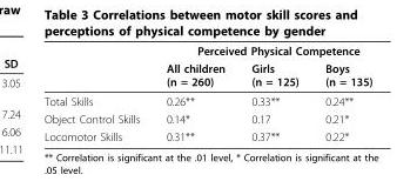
<table><thead><tr><td rowspan="2"></td><td colspan="3">Perceived Physical Competence</td></tr><tr><td>All children (n = 260)</td><td>Girls (n = 125)</td><td>Boys (n = 135)</td></tr></thead><tbody><tr><td>Total Skills</td><td>0.26**</td><td>0.33**</td><td>0.24**</td></tr><tr><td>Object Control Skills</td><td>0.14*</td><td>0.17</td><td>0.21*</td></tr><tr><td>Locomotor Skills</td><td>0.31**</td><td>0.37**</td><td>0.22*</td></tr></tbody></table>